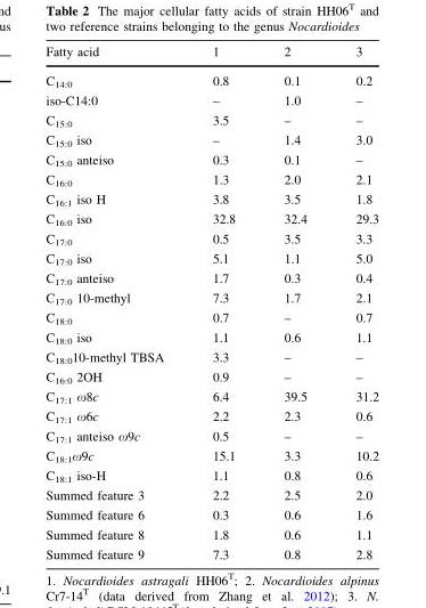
<table><thead><tr><td>Fatty acid</td><td>1</td><td>2</td><td>3</td></tr></thead><tbody><tr><td>C<sub>14:0</sub></td><td>0.8</td><td>0.1</td><td>0.2</td></tr><tr><td>iso-C14:0</td><td>–</td><td>1.0</td><td>–</td></tr><tr><td>C<sub>15:0</sub></td><td>3.5</td><td>–</td><td>–</td></tr><tr><td>C<sub>15:0</sub> iso</td><td>–</td><td>1.4</td><td>3.0</td></tr><tr><td>C<sub>15:0</sub> anteiso</td><td>0.3</td><td>0.1</td><td>–</td></tr><tr><td>C<sub>16:0</sub></td><td>1.3</td><td>2.0</td><td>2.1</td></tr><tr><td>C<sub>16:1</sub> iso H</td><td>3.8</td><td>3.5</td><td>1.8</td></tr><tr><td>C<sub>16:0</sub> iso</td><td>32.8</td><td>32.4</td><td>29.3</td></tr><tr><td>C<sub>17:0</sub></td><td>0.5</td><td>3.5</td><td>3.3</td></tr><tr><td>C<sub>17:0</sub> iso</td><td>5.1</td><td>1.1</td><td>5.0</td></tr><tr><td>C<sub>17:0</sub> anteiso</td><td>1.7</td><td>0.3</td><td>0.4</td></tr><tr><td>C<sub>17:0</sub> 10-methyl</td><td>7.3</td><td>1.7</td><td>2.1</td></tr><tr><td>C<sub>18:0</sub></td><td>0.7</td><td>–</td><td>0.7</td></tr><tr><td>C<sub>18:0</sub> iso</td><td>1.1</td><td>0.6</td><td>1.1</td></tr><tr><td>C<sub>18:0</sub>10-methyl TBSA</td><td>3.3</td><td>–</td><td>–</td></tr><tr><td>C<sub>16:0</sub> 2OH</td><td>0.9</td><td>–</td><td>–</td></tr><tr><td>C<sub>17:1</sub> ω8c</td><td>6.4</td><td>39.5</td><td>31.2</td></tr><tr><td>C<sub>17:1</sub> ω6c</td><td>2.2</td><td>2.3</td><td>0.6</td></tr><tr><td>C<sub>17:1</sub> anteiso ω9c</td><td>0.5</td><td>–</td><td>–</td></tr><tr><td>C<sub>18:1</sub>ω9c</td><td>15.1</td><td>3.3</td><td>10.2</td></tr><tr><td>C<sub>18:1</sub> iso-H</td><td>1.1</td><td>0.8</td><td>0.6</td></tr><tr><td>Summed feature 3</td><td>2.2</td><td>2.5</td><td>2.0</td></tr><tr><td>Summed feature 6</td><td>0.3</td><td>0.6</td><td>1.6</td></tr><tr><td>Summed feature 8</td><td>1.8</td><td>0.6</td><td>1.1</td></tr><tr><td>Summed feature 9</td><td>7.3</td><td>0.8</td><td>2.8</td></tr></tbody></table>